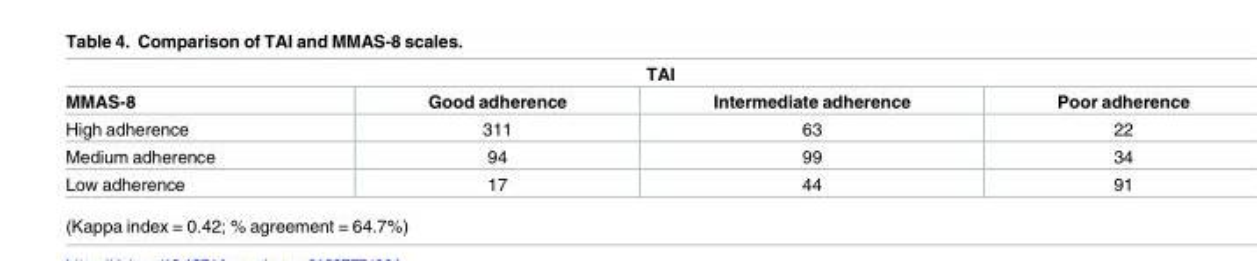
<table><thead><tr><td colspan="4">TAI</td></tr><tr><td>MMAS-8</td><td>Good adherence</td><td>Intermediate adherence</td><td>Poor adherence</td></tr></thead><tbody><tr><td>High adherence</td><td>311</td><td>63</td><td>22</td></tr><tr><td>Medium adherence</td><td>94</td><td>99</td><td>34</td></tr><tr><td>Low adherence</td><td>17</td><td>44</td><td>91</td></tr></tbody></table>